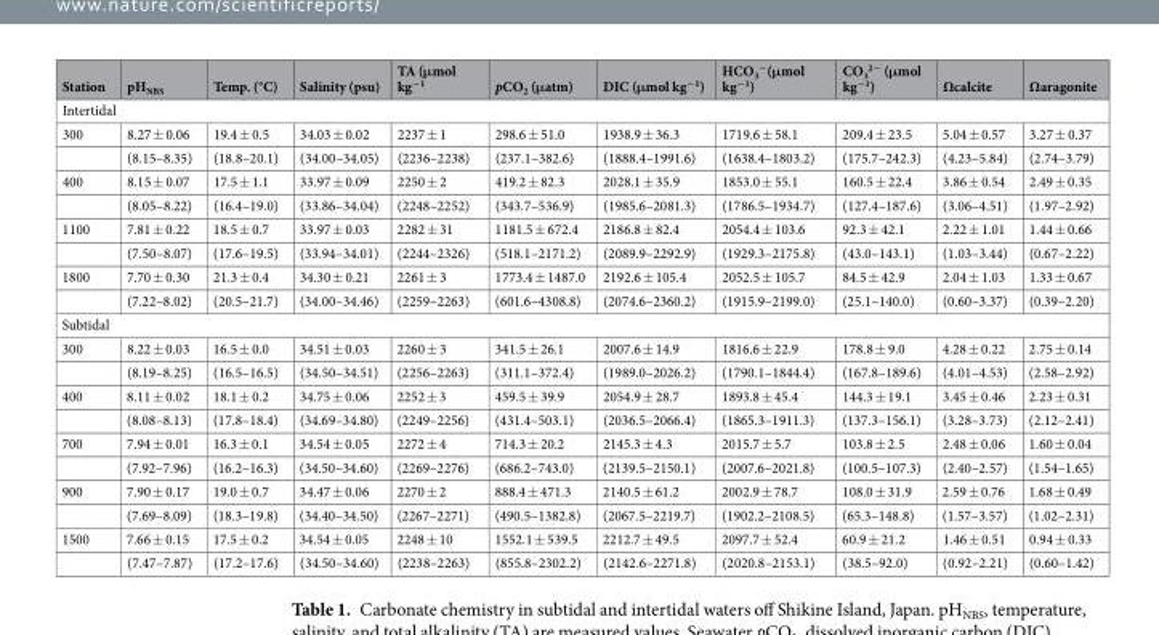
<table><thead><tr><td>Station</td><td>pH<sub>NBS</sub></td><td>Temp. (°C)</td><td>Salinity (psu)</td><td>TA (μmol kg<sup>−1</sup></td><td>pCO<sub>2</sub> (μatm)</td><td>DIC (μmol kg<sup>−1</sup>)</td><td>HCO<sub>3</sub> <sup>−</sup>(μmol kg<sup>−1</sup>)</td><td>CO<sub>3</sub> <sup>2−</sup> (μmol kg<sup>−1</sup>)</td><td>Ωcalcite</td><td>Ωaragonite</td></tr></thead><tbody><tr><td colspan="11">Intertidal</td></tr><tr><td rowspan="2">300</td><td>8.27 ± 0.06</td><td>19.4 ± 0.5</td><td>34.03 ± 0.02</td><td>2237 ± 1</td><td>298.6 ± 51.0</td><td>1938.9 ± 36.3</td><td>1719.6 ± 58.1</td><td>209.4 ± 23.5</td><td>5.04 ± 0.57</td><td>3.27 ± 0.37</td></tr><tr><td>(8.15–8.35)</td><td>(18.8–20.1)</td><td>(34.00–34.05)</td><td>(2236–2238)</td><td>(237.1–382.6)</td><td>(1888.4–1991.6)</td><td>(1638.4–1803.2)</td><td>(175.7–242.3)</td><td>(4.23–5.84)</td><td>(2.74–3.79)</td></tr><tr><td rowspan="2">400</td><td>8.15 ± 0.07</td><td>17.5 ± 1.1</td><td>33.97 ± 0.09</td><td>2250 ± 2</td><td>419.2 ± 82.3</td><td>2028.1 ± 35.9</td><td>1853.0 ± 55.1</td><td>160.5 ± 22.4</td><td>3.86 ± 0.54</td><td>2.49 ± 0.35</td></tr><tr><td>(8.05–8.22)</td><td>(16.4–19.0)</td><td>(33.86–34.04)</td><td>(2248–2252)</td><td>(343.7–536.9)</td><td>(1985.6–2081.3)</td><td>(1786.5–1934.7)</td><td>(127.4–187.6)</td><td>(3.06–4.51)</td><td>(1.97–2.92)</td></tr><tr><td rowspan="2">1100</td><td>7.81 ± 0.22</td><td>18.5 ± 0.7</td><td>33.97 ± 0.03</td><td>2282 ± 31</td><td>1181.5 ± 672.4</td><td>2186.8 ± 82.4</td><td>2054.4 ± 103.6</td><td>92.3 ± 42.1</td><td>2.22 ± 1.01</td><td>1.44 ± 0.66</td></tr><tr><td>(7.50–8.07)</td><td>(17.6–19.5)</td><td>(33.94–34.01)</td><td>(2244–2326)</td><td>(518.1–2171.2)</td><td>(2089.9–2292.9)</td><td>(1929.3–2175.8)</td><td>(43.0–143.1)</td><td>(1.03–3.44)</td><td>(0.67–2.22)</td></tr><tr><td rowspan="2">1800</td><td>7.70 ± 0.30</td><td>21.3 ± 0.4</td><td>34.30 ± 0.21</td><td>2261 ± 3</td><td>1773.4 ± 1487.0</td><td>2192.6 ± 105.4</td><td>2052.5 ± 105.7</td><td>84.5 ± 42.9</td><td>2.04 ± 1.03</td><td>1.33 ± 0.67</td></tr><tr><td>(7.22–8.02)</td><td>(20.5–21.7)</td><td>(34.00–34.46)</td><td>(2259–2263)</td><td>(601.6–4308.8)</td><td>(2074.6–2360.2)</td><td>(1915.9–2199.0)</td><td>(25.1–140.0)</td><td>(0.60–3.37)</td><td>(0.39–2.20)</td></tr><tr><td colspan="11">Subtidal</td></tr><tr><td rowspan="2">300</td><td>8.22 ± 0.03</td><td>16.5 ± 0.0</td><td>34.51 ± 0.03</td><td>2260 ± 3</td><td>341.5 ± 26.1</td><td>2007.6 ± 14.9</td><td>1816.6 ± 22.9</td><td>178.8 ± 9.0</td><td>4.28 ± 0.22</td><td>2.75 ± 0.14</td></tr><tr><td>(8.19–8.25)</td><td>(16.5–16.5)</td><td>(34.50–34.51)</td><td>(2256–2263)</td><td>(311.1–372.4)</td><td>(1989.0–2026.2)</td><td>(1790.1–1844.4)</td><td>(167.8–189.6)</td><td>(4.01–4.53)</td><td>(2.58–2.92)</td></tr><tr><td rowspan="2">400</td><td>8.11 ± 0.02</td><td>18.1 ± 0.2</td><td>34.75 ± 0.06</td><td>2252 ± 3</td><td>459.5 ± 39.9</td><td>2054.9 ± 28.7</td><td>1893.8 ± 45.4</td><td>144.3 ± 19.1</td><td>3.45 ± 0.46</td><td>2.23 ± 0.31</td></tr><tr><td>(8.08–8.13)</td><td>(17.8–18.4)</td><td>(34.69–34.80)</td><td>(2249–2256)</td><td>(431.4–503.1)</td><td>(2036.5–2066.4)</td><td>(1865.3–1911.3)</td><td>(137.3–156.1)</td><td>(3.28–3.73)</td><td>(2.12–2.41)</td></tr><tr><td rowspan="2">700</td><td>7.94 ± 0.01</td><td>16.3 ± 0.1</td><td>34.54 ± 0.05</td><td>2272 ± 4</td><td>714.3 ± 20.2</td><td>2145.3 ± 4.3</td><td>2015.7 ± 5.7</td><td>103.8 ± 2.5</td><td>2.48 ± 0.06</td><td>1.60 ± 0.04</td></tr><tr><td>(7.92–7.96)</td><td>(16.2–16.3)</td><td>(34.50–34.60)</td><td>(2269–2276)</td><td>(686.2–743.0)</td><td>(2139.5–2150.1)</td><td>(2007.6–2021.8)</td><td>(100.5–107.3)</td><td>(2.40–2.57)</td><td>(1.54–1.65)</td></tr><tr><td rowspan="2">900</td><td>7.90 ± 0.17</td><td>19.0 ± 0.7</td><td>34.47 ± 0.06</td><td>2270 ± 2</td><td>888.4 ± 471.3</td><td>2140.5 ± 61.2</td><td>2002.9 ± 78.7</td><td>108.0 ± 31.9</td><td>2.59 ± 0.76</td><td>1.68 ± 0.49</td></tr><tr><td>(7.69–8.09)</td><td>(18.3–19.8)</td><td>(34.40–34.50)</td><td>(2267–2271)</td><td>(490.5–1382.8)</td><td>(2067.5–2219.7)</td><td>(1902.2–2108.5)</td><td>(65.3–148.8)</td><td>(1.57–3.57)</td><td>(1.02–2.31)</td></tr><tr><td rowspan="2">1500</td><td>7.66 ± 0.15</td><td>17.5 ± 0.2</td><td>34.54 ± 0.05</td><td>2248 ± 10</td><td>1552.1 ± 539.5</td><td>2212.7 ± 49.5</td><td>2097.7 ± 52.4</td><td>60.9 ± 21.2</td><td>1.46 ± 0.51</td><td>0.94 ± 0.33</td></tr><tr><td>(7.47–7.87)</td><td>(17.2–17.6)</td><td>(34.50–34.60)</td><td>(2238–2263)</td><td>(855.8–2302.2)</td><td>(2142.6–2271.8)</td><td>(2020.8–2153.1)</td><td>(38.5–92.0)</td><td>(0.92–2.21)</td><td>(0.60–1.42)</td></tr></tbody></table>